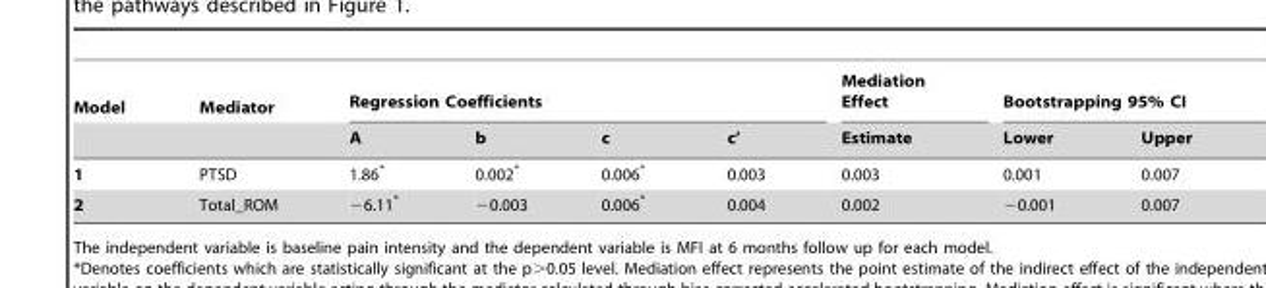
<table><thead><tr><td rowspan="2">Model</td><td rowspan="2">Mediator</td><td colspan="4">Regression Coefficients</td><td rowspan="2">Mediation Effect Estimate</td><td colspan="2">Bootstrapping 95% CI</td></tr><tr><td>A</td><td>b</td><td>c</td><td>c’</td><td>Lower</td><td>Upper</td></tr></thead><tbody><tr><td>1</td><td>PTSD</td><td>1.86*</td><td>0.002*</td><td>0.006*</td><td>0.003</td><td>0.003</td><td>0.001</td><td>0.007</td></tr><tr><td>2</td><td>Total_ROM</td><td>−6.11*</td><td>−0.003</td><td>0.006*</td><td>0.004</td><td>0.002</td><td>−0.001</td><td>0.007</td></tr></tbody></table>